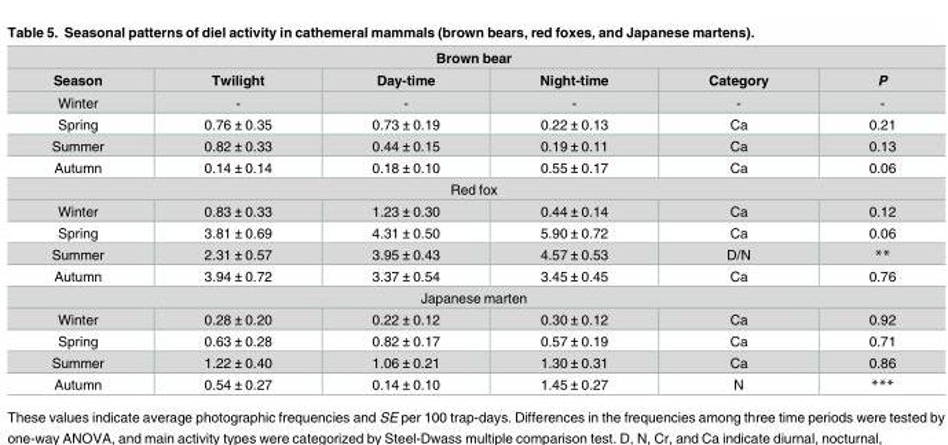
<table><thead><tr><td colspan="6">Brown bear</td></tr><tr><td>Season</td><td>Twilight</td><td>Day-time</td><td>Night-time</td><td>Category</td><td>P</td></tr></thead><tbody><tr><td>Winter</td><td>-</td><td>-</td><td>-</td><td>-</td><td>-</td></tr><tr><td>Spring</td><td>0.76 ± 0.35</td><td>0.73 ± 0.19</td><td>0.22 ± 0.13</td><td>Ca</td><td>0.21</td></tr><tr><td>Summer</td><td>0.82 ± 0.33</td><td>0.44 ± 0.15</td><td>0.19 ± 0.11</td><td>Ca</td><td>0.13</td></tr><tr><td>Autumn</td><td>0.14 ± 0.14</td><td>0.18 ± 0.10</td><td>0.55 ± 0.17</td><td>Ca</td><td>0.06</td></tr><tr><td colspan="6">Red fox</td></tr><tr><td>Winter</td><td>0.83 ± 0.33</td><td>1.23 ± 0.30</td><td>0.44 ± 0.14</td><td>Ca</td><td>0.12</td></tr><tr><td>Spring</td><td>3.81 ± 0.69</td><td>4.31 ± 0.50</td><td>5.90 ± 0.72</td><td>Ca</td><td>0.06</td></tr><tr><td>Summer</td><td>2.31 ± 0.57</td><td>3.95 ± 0.43</td><td>4.57 ± 0.53</td><td>D/N</td><td>**</td></tr><tr><td>Autumn</td><td>3.94 ± 0.72</td><td>3.37 ± 0.54</td><td>3.45 ± 0.45</td><td>Ca</td><td>0.76</td></tr><tr><td colspan="6">Japanese marten</td></tr><tr><td>Winter</td><td>0.28 ± 0.20</td><td>0.22 ± 0.12</td><td>0.30 ± 0.12</td><td>Ca</td><td>0.92</td></tr><tr><td>Spring</td><td>0.63 ± 0.28</td><td>0.82 ± 0.17</td><td>0.57 ± 0.19</td><td>Ca</td><td>0.71</td></tr><tr><td>Summer</td><td>1.22 ± 0.40</td><td>1.06 ± 0.21</td><td>1.30 ± 0.31</td><td>Ca</td><td>0.86</td></tr><tr><td>Autumn</td><td>0.54 ± 0.27</td><td>0.14 ± 0.10</td><td>1.45 ± 0.27</td><td>N</td><td>***</td></tr></tbody></table>